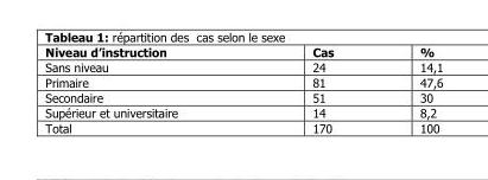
<table><thead><tr><td>Niveau d’instruction</td><td>Cas</td><td>%</td></tr></thead><tbody><tr><td>Sans niveau</td><td>24</td><td>14,1</td></tr><tr><td>Primaire</td><td>81</td><td>47,6</td></tr><tr><td>Secondaire</td><td>51</td><td>30</td></tr><tr><td>Supérieur et universitaire</td><td>14</td><td>8,2</td></tr><tr><td>Total</td><td>170</td><td>100</td></tr></tbody></table>